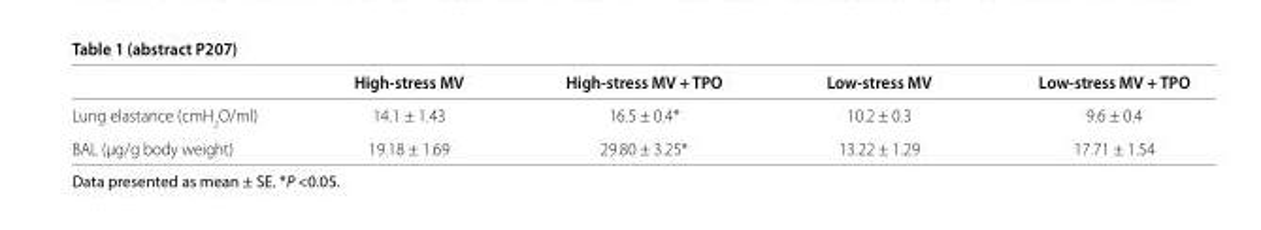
<table><thead><tr><td></td><td>High-stress MV</td><td>High-stress MV + TPO</td><td>Low-stress MV</td><td>Low-stress MV + TPO</td></tr></thead><tbody><tr><td>Lung elastance (cmH<sub>2</sub>O/ml)</td><td>14.1 ± 1.43</td><td>16.5 ± 0.4*</td><td>10.2 ± 0.3</td><td>9.6 ± 0.4</td></tr><tr><td>BAL (μg/g body weight)</td><td>19.18 ± 1.69</td><td>29.80 ± 3.25*</td><td>13.22 ± 1.29</td><td>17.71 ± 1.54</td></tr></tbody></table>